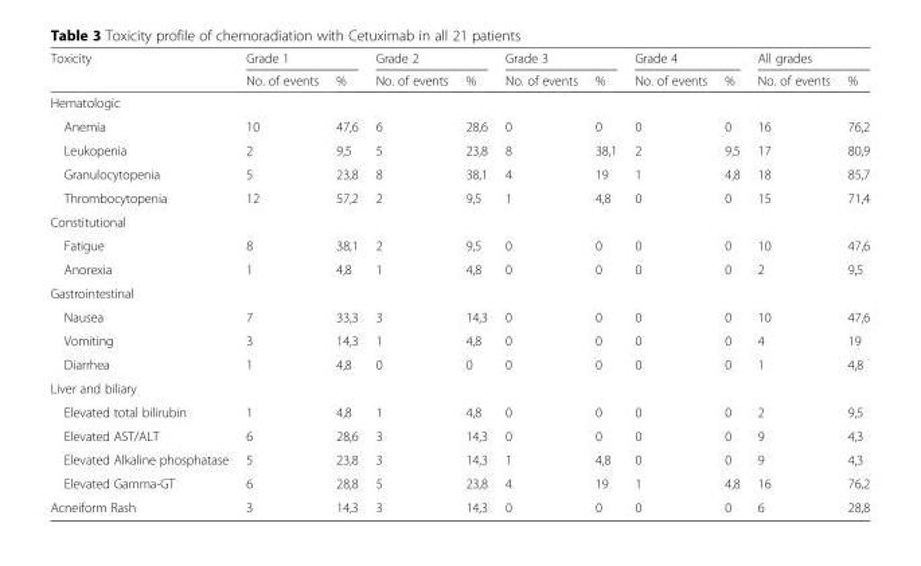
<table><thead><tr><td rowspan="2">Toxicity</td><td colspan="2">Grade 1</td><td colspan="2">Grade 2</td><td colspan="2">Grade 3</td><td colspan="2">Grade 4</td><td colspan="2">All grades</td></tr><tr><td>No. of events</td><td>%</td><td>No. of events</td><td>%</td><td>No. of events</td><td>%</td><td>No. of events</td><td>%</td><td>No. of events</td><td>%</td></tr></thead><tbody><tr><td colspan="11">Hematologic</td></tr><tr><td>Anemia</td><td>10</td><td>47,6</td><td>6</td><td>28,6</td><td>0</td><td>0</td><td>0</td><td>0</td><td>16</td><td>76,2</td></tr><tr><td>Leukopenia</td><td>2</td><td>9,5</td><td>5</td><td>23,8</td><td>8</td><td>38,1</td><td>2</td><td>9,5</td><td>17</td><td>80,9</td></tr><tr><td>Granulocytopenia</td><td>5</td><td>23,8</td><td>8</td><td>38,1</td><td>4</td><td>19</td><td>1</td><td>4,8</td><td>18</td><td>85,7</td></tr><tr><td>Thrombocytopenia</td><td>12</td><td>57,2</td><td>2</td><td>9,5</td><td>1</td><td>4,8</td><td>0</td><td>0</td><td>15</td><td>71,4</td></tr><tr><td colspan="11">Constitutional</td></tr><tr><td>Fatigue</td><td>8</td><td>38,1</td><td>2</td><td>9,5</td><td>0</td><td>0</td><td>0</td><td>0</td><td>10</td><td>47,6</td></tr><tr><td>Anorexia</td><td>1</td><td>4,8</td><td>1</td><td>4,8</td><td>0</td><td>0</td><td>0</td><td>0</td><td>2</td><td>9,5</td></tr><tr><td colspan="11">Gastrointestinal</td></tr><tr><td>Nausea</td><td>7</td><td>33,3</td><td>3</td><td>14,3</td><td>0</td><td>0</td><td>0</td><td>0</td><td>10</td><td>47,6</td></tr><tr><td>Vomiting</td><td>3</td><td>14,3</td><td>1</td><td>4,8</td><td>0</td><td>0</td><td>0</td><td>0</td><td>4</td><td>19</td></tr><tr><td>Diarrhea</td><td>1</td><td>4,8</td><td>0</td><td>0</td><td>0</td><td>0</td><td>0</td><td>0</td><td>1</td><td>4,8</td></tr><tr><td colspan="11">Liver and biliary</td></tr><tr><td>Elevated total bilirubin</td><td>1</td><td>4,8</td><td>1</td><td>4,8</td><td>0</td><td>0</td><td>0</td><td>0</td><td>2</td><td>9,5</td></tr><tr><td>Elevated AST/ALT</td><td>6</td><td>28,6</td><td>3</td><td>14,3</td><td>0</td><td>0</td><td>0</td><td>0</td><td>9</td><td>4,3</td></tr><tr><td>Elevated Alkaline phosphatase</td><td>5</td><td>23,8</td><td>3</td><td>14,3</td><td>1</td><td>4,8</td><td>0</td><td>0</td><td>9</td><td>4,3</td></tr><tr><td>Elevated Gamma-GT</td><td>6</td><td>28,8</td><td>5</td><td>23,8</td><td>4</td><td>19</td><td>1</td><td>4,8</td><td>16</td><td>76,2</td></tr><tr><td>Acneiform Rash</td><td>3</td><td>14,3</td><td>3</td><td>14,3</td><td>0</td><td>0</td><td>0</td><td>0</td><td>6</td><td>28,8</td></tr></tbody></table>